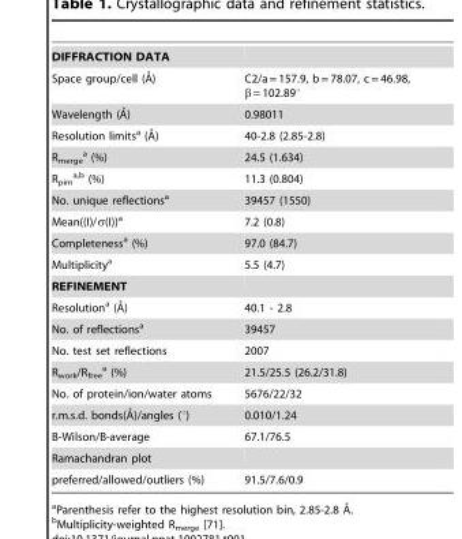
<table><tbody><tr><td colspan="2">DIFFRACTION DATA</td></tr><tr><td>Space group/cell (A˚)</td><td>C2/a = 157.9, b = 78.07, c = 46.98, β = 102.89°</td></tr><tr><td>Wavelength (A˚)</td><td>0.98011</td></tr><tr><td>Resolution limitsa (A˚)</td><td>40-2.8 (2.85-2.8)</td></tr><tr><td>R<sub>merge</sub> a (%)</td><td>24.5 (1.634)</td></tr><tr><td>R<sub>pim</sub> a<sup>,</sup>b (%)</td><td>11.3 (0.804)</td></tr><tr><td>No. unique reflections<sup>a</sup></td><td>39457 (1550)</td></tr><tr><td>Mean((I)/σ(I))<sup>a</sup></td><td>7.2 (0.8)</td></tr><tr><td>Completeness<sup>a</sup> (%)</td><td>97.0 (84.7)</td></tr><tr><td>Multiplicity<sup>a</sup></td><td>5.5 (4.7)</td></tr><tr><td colspan="2">REFINEMENT</td></tr><tr><td>Resolutiona (A˚)</td><td>40.1 - 2.8</td></tr><tr><td>No. of reflections<sup>a</sup></td><td>39457</td></tr><tr><td>No. test set reflections</td><td>2007</td></tr><tr><td>R<sub>work</sub>/R<sub>free</sub> a (%)</td><td>21.5/25.5 (26.2/31.8)</td></tr><tr><td>No. of protein/ion/water atoms</td><td>5676/22/32</td></tr><tr><td>r.m.s.d. bonds(A˚)/angles (u)</td><td>0.010/1.24</td></tr><tr><td>B-Wilson/B-average</td><td>67.1/76.5</td></tr><tr><td colspan="2">Ramachandran plot</td></tr><tr><td>preferred/allowed/outliers (%)</td><td>91.5/7.6/0.9</td></tr></tbody></table>